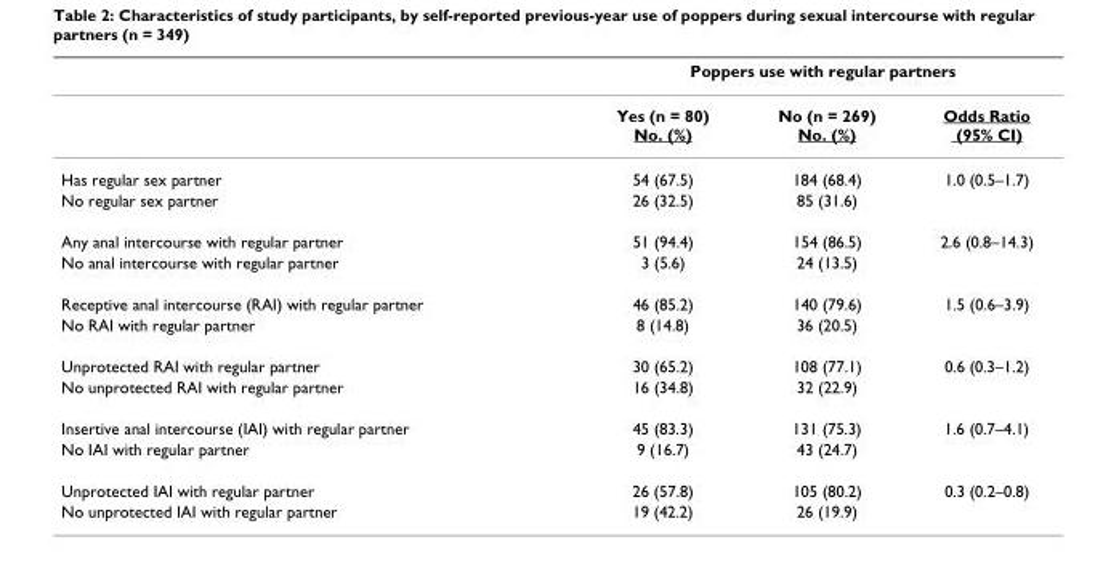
<table><thead><tr><td rowspan="2"></td><td colspan="3">Poppers use with regular partners</td></tr><tr><td>Yes (n = 80) No. (%)</td><td>No (n = 269) No. (%)</td><td>Odds Ratio (95% CI)</td></tr></thead><tbody><tr><td>Has regular sex partner</td><td>54 (67.5)</td><td>184 (68.4)</td><td>1.0 (0.5–1.7)</td></tr><tr><td>No regular sex partner</td><td>26 (32.5)</td><td>85 (31.6)</td><td></td></tr><tr><td>Any anal intercourse with regular partner</td><td>51 (94.4)</td><td>154 (86.5)</td><td>2.6 (0.8–14.3)</td></tr><tr><td>No anal intercourse with regular partner</td><td>3 (5.6)</td><td>24 (13.5)</td><td></td></tr><tr><td>Receptive anal intercourse (RAI) with regular partner</td><td>46 (85.2)</td><td>140 (79.6)</td><td>1.5 (0.6–3.9)</td></tr><tr><td>No RAI with regular partner</td><td>8 (14.8)</td><td>36 (20.5)</td><td></td></tr><tr><td>Unprotected RAI with regular partner</td><td>30 (65.2)</td><td>108 (77.1)</td><td>0.6 (0.3–1.2)</td></tr><tr><td>No unprotected RAI with regular partner</td><td>16 (34.8)</td><td>32 (22.9)</td><td></td></tr><tr><td>Insertive anal intercourse (IAI) with regular partner</td><td>45 (83.3)</td><td>131 (75.3)</td><td>1.6 (0.7–4.1)</td></tr><tr><td>No IAI with regular partner</td><td>9 (16.7)</td><td>43 (24.7)</td><td></td></tr><tr><td>Unprotected IAI with regular partner</td><td>26 (57.8)</td><td>105 (80.2)</td><td>0.3 (0.2–0.8)</td></tr><tr><td>No unprotected IAI with regular partner</td><td>19 (42.2)</td><td>26 (19.9)</td><td></td></tr></tbody></table>